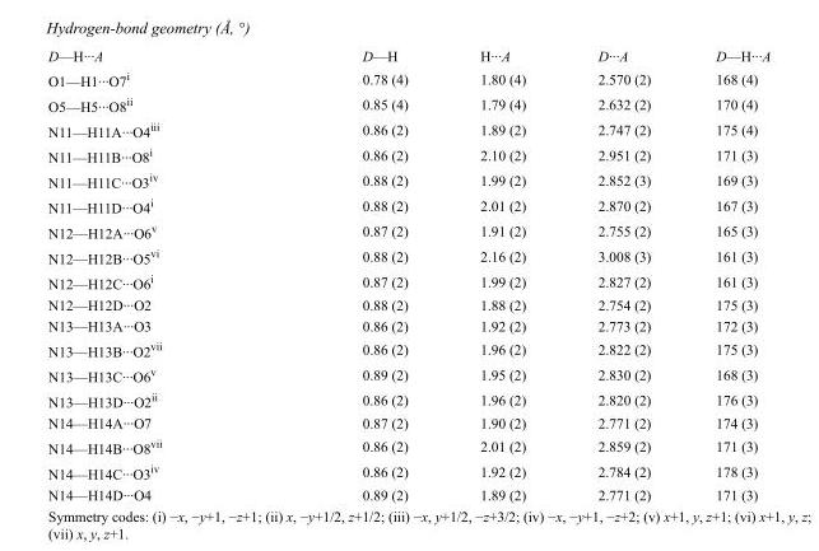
<table><tbody><tr><td>D—H···A</td><td>D—H</td><td>H···A</td><td>D···A</td><td>D—H···A</td></tr><tr><td>O1—H1···O7<sup>i</sup></td><td>0.78 (4)</td><td>1.80 (4)</td><td>2.570 (2)</td><td>168 (4)</td></tr><tr><td>O5—H5···O8<sup>ii</sup></td><td>0.85 (4)</td><td>1.79 (4)</td><td>2.632 (2)</td><td>170 (4)</td></tr><tr><td>N11—H11A···O4<sup>iii</sup></td><td>0.86 (2)</td><td>1.89 (2)</td><td>2.747 (2)</td><td>175 (4)</td></tr><tr><td>N11—H11B···O8<sup>i</sup></td><td>0.86 (2)</td><td>2.10 (2)</td><td>2.951 (2)</td><td>171 (3)</td></tr><tr><td>N11—H11C···O3<sup>iv</sup></td><td>0.88 (2)</td><td>1.99 (2)</td><td>2.852 (3)</td><td>169 (3)</td></tr><tr><td>N11—H11D···O4<sup>i</sup></td><td>0.88 (2)</td><td>2.01 (2)</td><td>2.870 (2)</td><td>167 (3)</td></tr><tr><td>N12—H12A···O6<sup>v</sup></td><td>0.87 (2)</td><td>1.91 (2)</td><td>2.755 (2)</td><td>165 (3)</td></tr><tr><td>N12—H12B···O5<sup>vi</sup></td><td>0.88 (2)</td><td>2.16 (2)</td><td>3.008 (3)</td><td>161 (3)</td></tr><tr><td>N12—H12C···O6<sup>i</sup></td><td>0.87 (2)</td><td>1.99 (2)</td><td>2.827 (2)</td><td>161 (3)</td></tr><tr><td>N12—H12D···O2</td><td>0.88 (2)</td><td>1.88 (2)</td><td>2.754 (2)</td><td>175 (3)</td></tr><tr><td>N13—H13A···O3</td><td>0.86 (2)</td><td>1.92 (2)</td><td>2.773 (2)</td><td>172 (3)</td></tr><tr><td>N13—H13B···O2<sup>vii</sup></td><td>0.86 (2)</td><td>1.96 (2)</td><td>2.822 (2)</td><td>175 (3)</td></tr><tr><td>N13—H13C···O6<sup>v</sup></td><td>0.89 (2)</td><td>1.95 (2)</td><td>2.830 (2)</td><td>168 (3)</td></tr><tr><td>N13—H13D···O2<sup>ii</sup></td><td>0.86 (2)</td><td>1.96 (2)</td><td>2.820 (2)</td><td>176 (3)</td></tr><tr><td>N14—H14A···O7</td><td>0.87 (2)</td><td>1.90 (2)</td><td>2.771 (2)</td><td>174 (3)</td></tr><tr><td>N14—H14B···O8<sup>vii</sup></td><td>0.86 (2)</td><td>2.01 (2)</td><td>2.859 (2)</td><td>171 (3)</td></tr><tr><td>N14—H14C···O3<sup>iv</sup></td><td>0.86 (2)</td><td>1.92 (2)</td><td>2.784 (2)</td><td>178 (3)</td></tr><tr><td>N14—H14D···O4</td><td>0.89 (2)</td><td>1.89 (2)</td><td>2.771 (2)</td><td>171 (3)</td></tr></tbody></table>